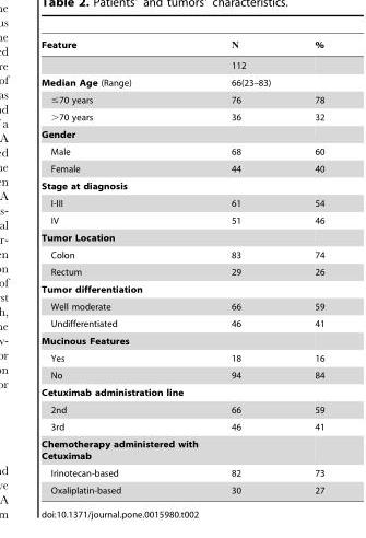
<table><thead><tr><td>Feature</td><td>N</td><td>%</td></tr></thead><tbody><tr><td></td><td>112</td><td></td></tr><tr><td>Median Age (Range)</td><td colspan="2">66(23–83)</td></tr><tr><td>≤70 years</td><td>76</td><td>78</td></tr><tr><td>&gt;70 years</td><td>36</td><td>32</td></tr><tr><td colspan="3">Gender</td></tr><tr><td>Male</td><td>68</td><td>60</td></tr><tr><td>Female</td><td>44</td><td>40</td></tr><tr><td colspan="3">Stage at diagnosis</td></tr><tr><td>I-III</td><td>61</td><td>54</td></tr><tr><td>IV</td><td>51</td><td>46</td></tr><tr><td colspan="3">Tumor Location</td></tr><tr><td>Colon</td><td>83</td><td>74</td></tr><tr><td>Rectum</td><td>29</td><td>26</td></tr><tr><td colspan="3">Tumor differentiation</td></tr><tr><td>Well moderate</td><td>66</td><td>59</td></tr><tr><td>Undifferentiated</td><td>46</td><td>41</td></tr><tr><td colspan="3">Mucinous Features</td></tr><tr><td>Yes</td><td>18</td><td>16</td></tr><tr><td>No</td><td>94</td><td>84</td></tr><tr><td colspan="3">Cetuximab administration line</td></tr><tr><td>2nd</td><td>66</td><td>59</td></tr><tr><td>3rd</td><td>46</td><td>41</td></tr><tr><td colspan="3">Chemotherapy administered with Cetuximab</td></tr><tr><td>Irinotecan-based</td><td>82</td><td>73</td></tr><tr><td>Oxaliplatin-based</td><td>30</td><td>27</td></tr></tbody></table>